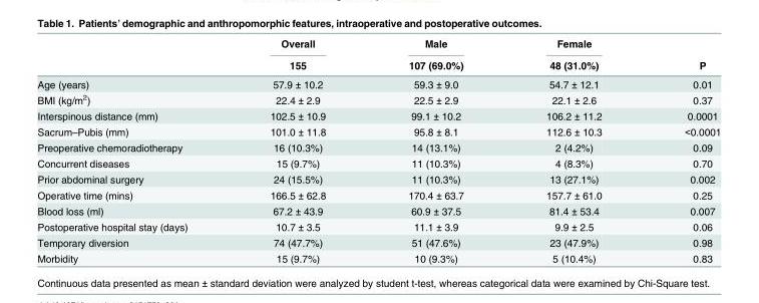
<table><thead><tr><td rowspan="2"></td><td rowspan="2">Overall 155</td><td rowspan="2">Male 107 (69.0%)</td><td rowspan="2">Female 48 (31.0%)</td><td rowspan="2">P</td></tr><tr></tr></thead><tbody><tr><td>Age (years)</td><td>57.9 ± 10.2</td><td>59.3 ± 9.0</td><td>54.7 ± 12.1</td><td>0.01</td></tr><tr><td>BMI (kg/m<sup>2</sup>)</td><td>22.4 ± 2.9</td><td>22.5 ± 2.9</td><td>22.1 ± 2.6</td><td>0.37</td></tr><tr><td>Interspinous distance (mm)</td><td>102.5 ± 10.9</td><td>99.1 ± 10.2</td><td>106.2 ± 11.2</td><td>0.0001</td></tr><tr><td>Sacrum–Pubis (mm)</td><td>101.0 ± 11.8</td><td>95.8 ± 8.1</td><td>112.6 ± 10.3</td><td>&lt;0.0001</td></tr><tr><td>Preoperative chemoradiotherapy</td><td>16 (10.3%)</td><td>14 (13.1%)</td><td>2 (4.2%)</td><td>0.09</td></tr><tr><td>Concurrent diseases</td><td>15 (9.7%)</td><td>11 (10.3%)</td><td>4 (8.3%)</td><td>0.70</td></tr><tr><td>Prior abdominal surgery</td><td>24 (15.5%)</td><td>11 (10.3%)</td><td>13 (27.1%)</td><td>0.002</td></tr><tr><td>Operative time (mins)</td><td>166.5 ± 62.8</td><td>170.4 ± 63.7</td><td>157.7 ± 61.0</td><td>0.25</td></tr><tr><td>Blood loss (ml)</td><td>67.2 ± 43.9</td><td>60.9 ± 37.5</td><td>81.4 ± 53.4</td><td>0.007</td></tr><tr><td>Postoperative hospital stay (days)</td><td>10.7 ± 3.5</td><td>11.1 ± 3.9</td><td>9.9 ± 2.5</td><td>0.06</td></tr><tr><td>Temporary diversion</td><td>74 (47.7%)</td><td>51 (47.6%)</td><td>23 (47.9%)</td><td>0.98</td></tr><tr><td>Morbidity</td><td>15 (9.7%)</td><td>10 (9.3%)</td><td>5 (10.4%)</td><td>0.83</td></tr></tbody></table>